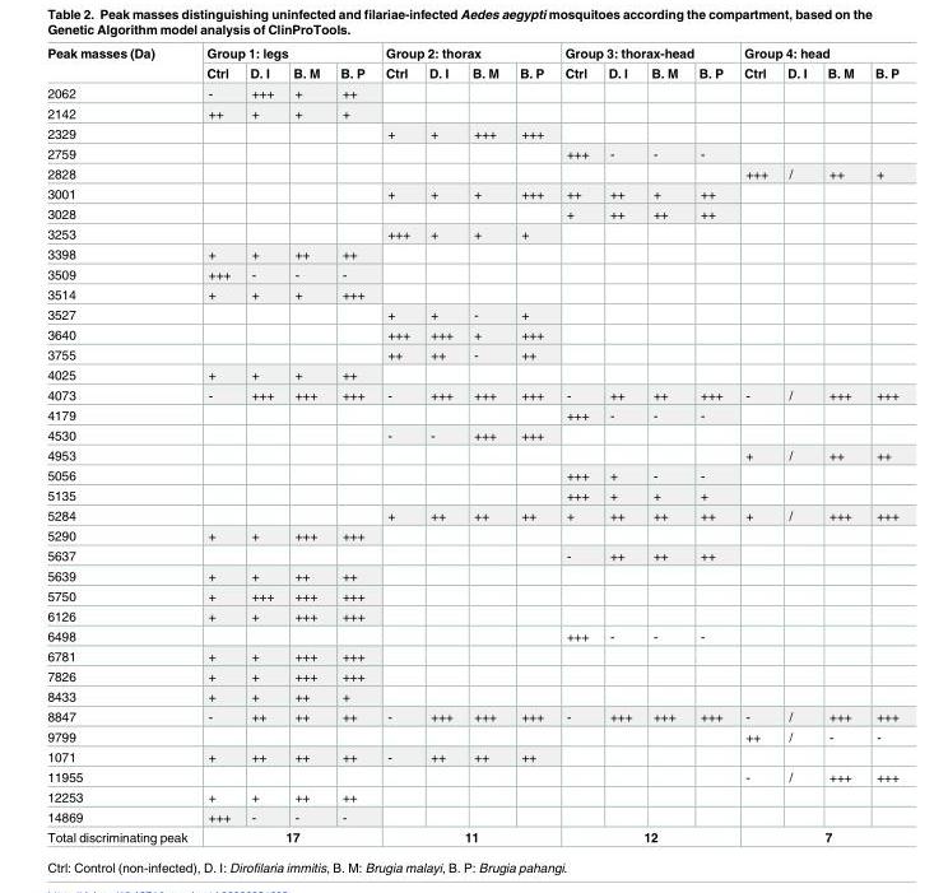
<table><thead><tr><td rowspan="2">Peak masses (Da)</td><td colspan="4">Group 1: legs</td><td colspan="4">Group 2: thorax</td><td colspan="4">Group 3: thorax-head</td><td colspan="4">Group 4: head</td></tr><tr><td>Ctrl</td><td>D. I</td><td>B. M</td><td>B. P</td><td>Ctrl</td><td>D. I</td><td>B. M</td><td>B. P</td><td>Ctrl</td><td>D. I</td><td>B. M</td><td>B. P</td><td>Ctrl</td><td>D. I</td><td>B. M</td><td>B. P</td></tr></thead><tbody><tr><td>2062</td><td>-</td><td>+++</td><td>+</td><td>++</td><td></td><td></td><td></td><td></td><td></td><td></td><td></td><td></td><td></td><td></td><td></td><td></td></tr><tr><td>2142</td><td>++</td><td>+</td><td>+</td><td>+</td><td></td><td></td><td></td><td></td><td></td><td></td><td></td><td></td><td></td><td></td><td></td><td></td></tr><tr><td>2329</td><td></td><td></td><td></td><td></td><td>+</td><td>+</td><td>+++</td><td>+++</td><td></td><td></td><td></td><td></td><td></td><td></td><td></td><td></td></tr><tr><td>2759</td><td></td><td></td><td></td><td></td><td></td><td></td><td></td><td></td><td>+++</td><td>-</td><td>-</td><td>-</td><td></td><td></td><td></td><td></td></tr><tr><td>2828</td><td></td><td></td><td></td><td></td><td></td><td></td><td></td><td></td><td></td><td></td><td></td><td></td><td>+++</td><td>/</td><td>++</td><td>+</td></tr><tr><td>3001</td><td></td><td></td><td></td><td></td><td>+</td><td>+</td><td>+</td><td>+++</td><td>++</td><td>++</td><td>+</td><td>++</td><td></td><td></td><td></td><td></td></tr><tr><td>3028</td><td></td><td></td><td></td><td></td><td></td><td></td><td></td><td></td><td>+</td><td>++</td><td>++</td><td>++</td><td></td><td></td><td></td><td></td></tr><tr><td>3253</td><td></td><td></td><td></td><td></td><td>+++</td><td>+</td><td>+</td><td>+</td><td></td><td></td><td></td><td></td><td></td><td></td><td></td><td></td></tr><tr><td>3398</td><td>+</td><td>+</td><td>++</td><td>++</td><td></td><td></td><td></td><td></td><td></td><td></td><td></td><td></td><td></td><td></td><td></td><td></td></tr><tr><td>3509</td><td>+++</td><td>-</td><td>-</td><td>-</td><td></td><td></td><td></td><td></td><td></td><td></td><td></td><td></td><td></td><td></td><td></td><td></td></tr><tr><td>3514</td><td>+</td><td>+</td><td>+</td><td>+++</td><td></td><td></td><td></td><td></td><td></td><td></td><td></td><td></td><td></td><td></td><td></td><td></td></tr><tr><td>3527</td><td></td><td></td><td></td><td></td><td>+</td><td>+</td><td>-</td><td>+</td><td></td><td></td><td></td><td></td><td></td><td></td><td></td><td></td></tr><tr><td>3640</td><td></td><td></td><td></td><td></td><td>+++</td><td>+++</td><td>+</td><td>+++</td><td></td><td></td><td></td><td></td><td></td><td></td><td></td><td></td></tr><tr><td>3755</td><td></td><td></td><td></td><td></td><td>++</td><td>++</td><td>-</td><td>++</td><td></td><td></td><td></td><td></td><td></td><td></td><td></td><td></td></tr><tr><td>4025</td><td>+</td><td>+</td><td>+</td><td>++</td><td></td><td></td><td></td><td></td><td></td><td></td><td></td><td></td><td></td><td></td><td></td><td></td></tr><tr><td>4073</td><td>-</td><td>+++</td><td>+++</td><td>+++</td><td>-</td><td>+++</td><td>+++</td><td>+++</td><td>-</td><td>++</td><td>++</td><td>+++</td><td>-</td><td>/</td><td>+++</td><td>+++</td></tr><tr><td>4179</td><td></td><td></td><td></td><td></td><td></td><td></td><td></td><td></td><td>+++</td><td>-</td><td>-</td><td>-</td><td></td><td></td><td></td><td></td></tr><tr><td>4530</td><td></td><td></td><td></td><td></td><td>-</td><td>-</td><td>+++</td><td>+++</td><td></td><td></td><td></td><td></td><td></td><td></td><td></td><td></td></tr><tr><td>4953</td><td></td><td></td><td></td><td></td><td></td><td></td><td></td><td></td><td></td><td></td><td></td><td></td><td>+</td><td>/</td><td>++</td><td>++</td></tr><tr><td>5056</td><td></td><td></td><td></td><td></td><td></td><td></td><td></td><td></td><td>+++</td><td>+</td><td>-</td><td>-</td><td></td><td></td><td></td><td></td></tr><tr><td>5135</td><td></td><td></td><td></td><td></td><td></td><td></td><td></td><td></td><td>+++</td><td>+</td><td>+</td><td>+</td><td></td><td></td><td></td><td></td></tr><tr><td>5284</td><td></td><td></td><td></td><td></td><td>+</td><td>++</td><td>++</td><td>++</td><td>+</td><td>++</td><td>++</td><td>++</td><td>+</td><td>/</td><td>+++</td><td>+++</td></tr><tr><td>5290</td><td>+</td><td>+</td><td>+++</td><td>+++</td><td></td><td></td><td></td><td></td><td></td><td></td><td></td><td></td><td></td><td></td><td></td><td></td></tr><tr><td>5637</td><td></td><td></td><td></td><td></td><td></td><td></td><td></td><td></td><td>-</td><td>++</td><td>++</td><td>++</td><td></td><td></td><td></td><td></td></tr><tr><td>5639</td><td>+</td><td>+</td><td>++</td><td>++</td><td></td><td></td><td></td><td></td><td></td><td></td><td></td><td></td><td></td><td></td><td></td><td></td></tr><tr><td>5750</td><td>+</td><td>+++</td><td>+++</td><td>+++</td><td></td><td></td><td></td><td></td><td></td><td></td><td></td><td></td><td></td><td></td><td></td><td></td></tr><tr><td>6126</td><td>+</td><td>+</td><td>+++</td><td>+++</td><td></td><td></td><td></td><td></td><td></td><td></td><td></td><td></td><td></td><td></td><td></td><td></td></tr><tr><td>6498</td><td></td><td></td><td></td><td></td><td></td><td></td><td></td><td></td><td>+++</td><td>-</td><td>-</td><td>-</td><td></td><td></td><td></td><td></td></tr><tr><td>6781</td><td>+</td><td>+</td><td>+++</td><td>+++</td><td></td><td></td><td></td><td></td><td></td><td></td><td></td><td></td><td></td><td></td><td></td><td></td></tr><tr><td>7826</td><td>+</td><td>+</td><td>+++</td><td>+++</td><td></td><td></td><td></td><td></td><td></td><td></td><td></td><td></td><td></td><td></td><td></td><td></td></tr><tr><td>8433</td><td>+</td><td>+</td><td>++</td><td>+</td><td></td><td></td><td></td><td></td><td></td><td></td><td></td><td></td><td></td><td></td><td></td><td></td></tr><tr><td>8847</td><td>-</td><td>++</td><td>++</td><td>++</td><td>-</td><td>+++</td><td>+++</td><td>+++</td><td>-</td><td>+++</td><td>+++</td><td>+++</td><td>-</td><td>/</td><td>+++</td><td>+++</td></tr><tr><td>9799</td><td></td><td></td><td></td><td></td><td></td><td></td><td></td><td></td><td></td><td></td><td></td><td></td><td>++</td><td>/</td><td>-</td><td>-</td></tr><tr><td>1071</td><td>+</td><td>++</td><td>++</td><td>++</td><td>-</td><td>++</td><td>++</td><td>++</td><td></td><td></td><td></td><td></td><td></td><td></td><td></td><td></td></tr><tr><td>11955</td><td></td><td></td><td></td><td></td><td></td><td></td><td></td><td></td><td></td><td></td><td></td><td></td><td>-</td><td>/</td><td>+++</td><td>+++</td></tr><tr><td>12253</td><td>+</td><td>+</td><td>++</td><td>++</td><td></td><td></td><td></td><td></td><td></td><td></td><td></td><td></td><td></td><td></td><td></td><td></td></tr><tr><td>14869</td><td>+++</td><td>-</td><td>-</td><td>-</td><td></td><td></td><td></td><td></td><td></td><td></td><td></td><td></td><td></td><td></td><td></td><td></td></tr><tr><td>Total discriminating peak</td><td colspan="4">17</td><td colspan="4">11</td><td colspan="4">12</td><td colspan="4">7</td></tr></tbody></table>